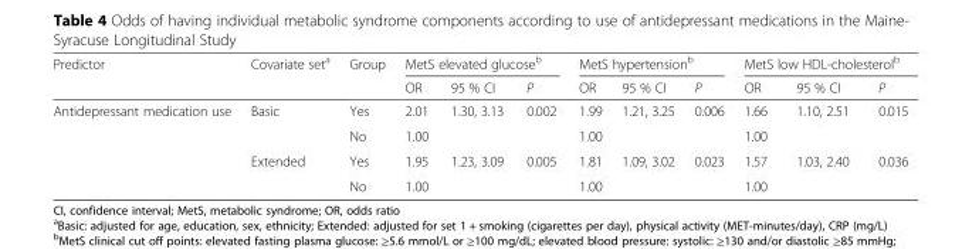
<table><thead><tr><td rowspan="2">Predictor</td><td rowspan="2">Covariate set<sup>a</sup></td><td rowspan="2">Group</td><td colspan="3">MetS elevated glucose<sup>b</sup></td><td colspan="3">MetS hypertension<sup>b</sup></td><td colspan="3">MetS low HDL-cholesterol<sup>b</sup></td></tr><tr><td>OR</td><td>95 % CI</td><td>P</td><td>OR</td><td>95 % CI</td><td>P</td><td>OR</td><td>95 % CI</td><td>P</td></tr></thead><tbody><tr><td rowspan="4">Antidepressant medication use</td><td>Basic</td><td>Yes</td><td>2.01</td><td>1.30, 3.13</td><td>0.002</td><td>1.99</td><td>1.21, 3.25</td><td>0.006</td><td>1.66</td><td>1.10, 2.51</td><td>0.015</td></tr><tr><td></td><td>No</td><td>1.00</td><td></td><td></td><td>1.00</td><td></td><td></td><td>1.00</td><td></td><td></td></tr><tr><td>Extended</td><td>Yes</td><td>1.95</td><td>1.23, 3.09</td><td>0.005</td><td>1.81</td><td>1.09, 3.02</td><td>0.023</td><td>1.57</td><td>1.03, 2.40</td><td>0.036</td></tr><tr><td></td><td>No</td><td>1.00</td><td></td><td></td><td>1.00</td><td></td><td></td><td>1.00</td><td></td><td></td></tr></tbody></table>